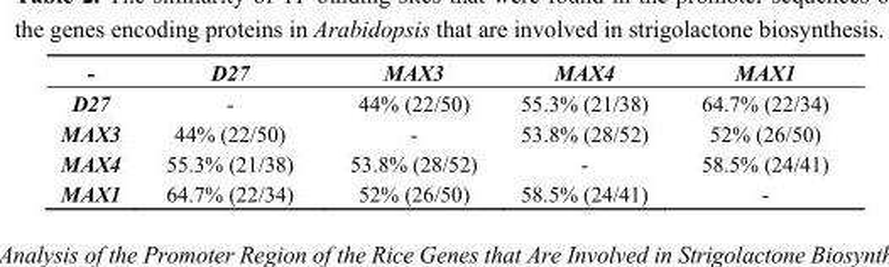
<table><thead><tr><td>-</td><td>D27</td><td>MAX3</td><td>MAX4</td><td>MAX1</td></tr></thead><tbody><tr><td>D27</td><td>-</td><td>44% (22/50)</td><td>55.3% (21/38)</td><td>64.7% (22/34)</td></tr><tr><td>MAX3</td><td>44% (22/50)</td><td>-</td><td>53.8% (28/52)</td><td>52% (26/50)</td></tr><tr><td>MAX4</td><td>55.3% (21/38)</td><td>53.8% (28/52)</td><td>-</td><td>58.5% (24/41)</td></tr><tr><td>MAX1</td><td>64.7% (22/34)</td><td>52% (26/50)</td><td>58.5% (24/41)</td><td>-</td></tr></tbody></table>